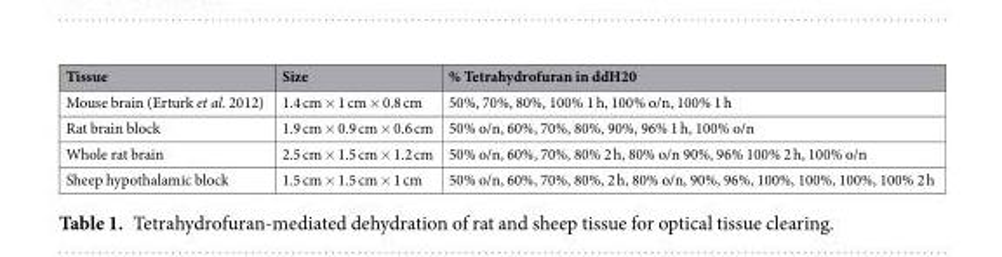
<table><thead><tr><td>Tissue</td><td>Size</td><td>% Tetrahydrofuran in ddH20</td></tr></thead><tbody><tr><td>Mouse brain (Erturk et al. 2012)</td><td>1.4 cm × 1 cm × 0.8 cm</td><td>50%, 70%, 80%, 100% 1 h, 100% o/n, 100% 1 h</td></tr><tr><td>Rat brain block</td><td>1.9 cm × 0.9 cm × 0.6 cm</td><td>50% o/n, 60%, 70%, 80%, 90%, 96% 1 h, 100% o/n</td></tr><tr><td>Whole rat brain</td><td>2.5 cm × 1.5 cm × 1.2 cm</td><td>50% o/n, 60%, 70%, 80% 2 h, 80% o/n 90%, 96% 100% 2 h, 100% o/n</td></tr><tr><td>Sheep hypothalamic block</td><td>1.5 cm × 1.5 cm × 1 cm</td><td>50% o/n, 60%, 70%, 80%, 2 h, 80% o/n, 90%, 96%, 100%, 100%, 100%, 100% 2 h</td></tr></tbody></table>